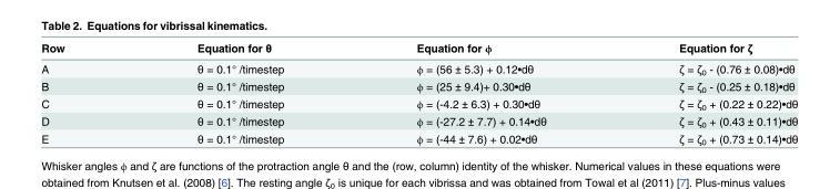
<table><thead><tr><td>Row</td><td>Equation for θ</td><td>Equation for ϕ</td><td>Equation for ζ</td></tr></thead><tbody><tr><td>A</td><td>θ = 0.1° /timestep</td><td>ϕ = (56 ± 5.3) + 0.12•dθ</td><td>ζ = ζ<sub>0</sub> - (0.76 ± 0.08)•dθ</td></tr><tr><td>B</td><td>θ = 0.1° /timestep</td><td>ϕ = (25 ± 9.4)+ 0.30•dθ</td><td>ζ = ζ<sub>0</sub> - (0.25 ± 0.18)•dθ</td></tr><tr><td>C</td><td>θ = 0.1° /timestep</td><td>ϕ = (-4.2 ± 6.3) + 0.30•dθ</td><td>ζ = ζ<sub>0</sub> + (0.22 ± 0.22)•dθ</td></tr><tr><td>D</td><td>θ = 0.1° /timestep</td><td>ϕ = (-27.2 ± 7.7) + 0.14•dθ</td><td>ζ = ζ<sub>0</sub> + (0.43 ± 0.11)•dθ</td></tr><tr><td>E</td><td>θ = 0.1° /timestep</td><td>ϕ = (-44 ± 7.6) + 0.02•dθ</td><td>ζ = ζ<sub>0</sub> + (0.73 ± 0.14)•dθ</td></tr></tbody></table>